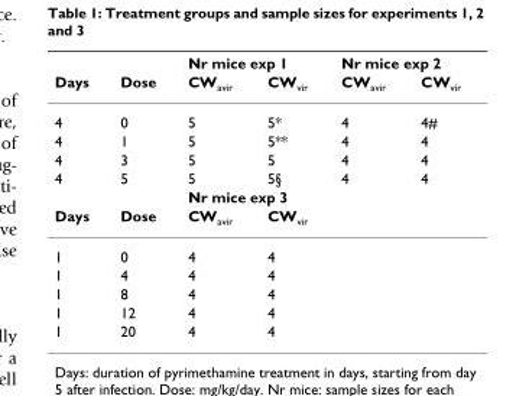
<table><thead><tr><td rowspan="2">Days</td><td rowspan="2">Dose</td><td colspan="2">Nr mice exp 1</td><td colspan="2">Nr mice exp 2</td></tr><tr><td>CW<sub>avir</sub></td><td>CW<sub>vir</sub></td><td>CW<sub>avir</sub></td><td>CW<sub>vir</sub></td></tr></thead><tbody><tr><td>4</td><td>0</td><td>5</td><td>5*</td><td>4</td><td>4#</td></tr><tr><td>4</td><td>1</td><td>5</td><td>5**</td><td>4</td><td>4</td></tr><tr><td>4</td><td>3</td><td>5</td><td>5</td><td>4</td><td>4</td></tr><tr><td rowspan="2">4</td><td>5</td><td>5</td><td>5§</td><td>4</td><td>4</td></tr><tr><td></td><td colspan="2">Nr mice exp 3</td><td></td><td></td></tr><tr><td>Days</td><td>Dose</td><td>CW<sub>avir</sub></td><td>CW<sub>vir</sub></td><td></td><td></td></tr><tr><td>1</td><td>0</td><td>4</td><td>4</td><td></td><td></td></tr><tr><td>1</td><td>4</td><td>4</td><td>4</td><td></td><td></td></tr><tr><td>1</td><td>8</td><td>4</td><td>4</td><td></td><td></td></tr><tr><td>1</td><td>12</td><td>4</td><td>4</td><td></td><td></td></tr><tr><td>1</td><td>20</td><td>4</td><td>4</td><td></td><td></td></tr></tbody></table>